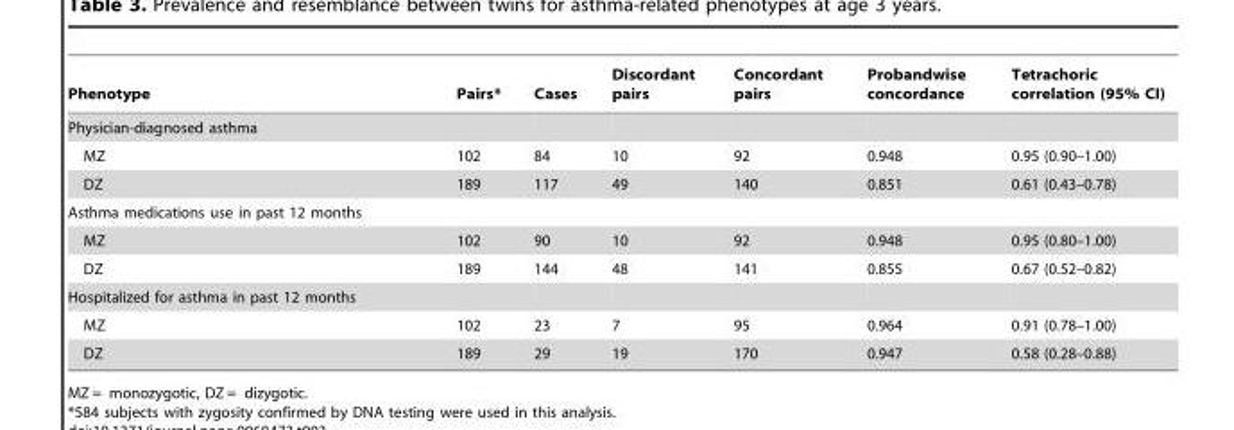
<table><thead><tr><td>Phenotype</td><td>Pairs*</td><td>Cases</td><td>Discordant pairs</td><td>Concordant pairs</td><td>Probandwise concordance</td><td>Tetrachoric correlation (95% CI)</td></tr></thead><tbody><tr><td colspan="7">Physician-diagnosed asthma</td></tr><tr><td>MZ</td><td>102</td><td>84</td><td>10</td><td>92</td><td>0.948</td><td>0.95 (0.90–1.00)</td></tr><tr><td>DZ</td><td>189</td><td>117</td><td>49</td><td>140</td><td>0.851</td><td>0.61 (0.43–0.78)</td></tr><tr><td colspan="7">Asthma medications use in past 12 months</td></tr><tr><td>MZ</td><td>102</td><td>90</td><td>10</td><td>92</td><td>0.948</td><td>0.95 (0.80–1.00)</td></tr><tr><td>DZ</td><td>189</td><td>144</td><td>48</td><td>141</td><td>0.855</td><td>0.67 (0.52–0.82)</td></tr><tr><td colspan="7">Hospitalized for asthma in past 12 months</td></tr><tr><td>MZ</td><td>102</td><td>23</td><td>7</td><td>95</td><td>0.964</td><td>0.91 (0.78–1.00)</td></tr><tr><td>DZ</td><td>189</td><td>29</td><td>19</td><td>170</td><td>0.947</td><td>0.58 (0.28–0.88)</td></tr></tbody></table>